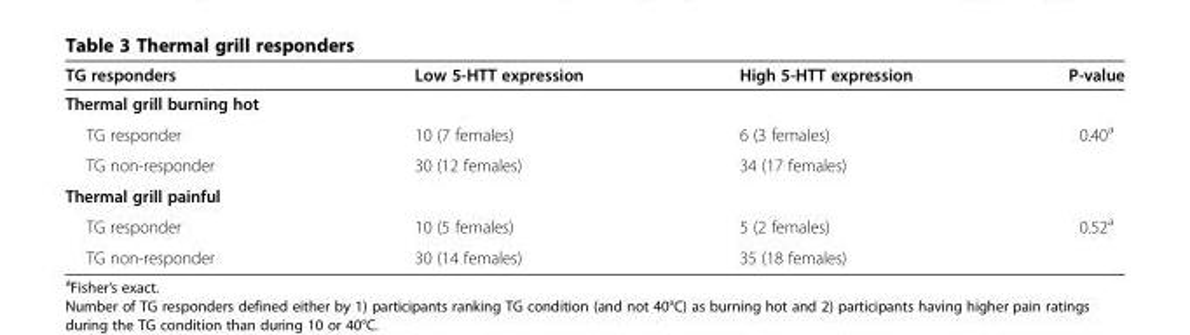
<table><thead><tr><td>TG responders</td><td>Low 5-HTT expression</td><td>High 5-HTT expression</td><td>P-value</td></tr></thead><tbody><tr><td colspan="4">Thermal grill burning hot</td></tr><tr><td>TG responder</td><td>10 (7 females)</td><td>6 (3 females)</td><td>0.40<sup>a</sup></td></tr><tr><td>TG non-responder</td><td>30 (12 females)</td><td>34 (17 females)</td><td></td></tr><tr><td colspan="4">Thermal grill painful</td></tr><tr><td>TG responder</td><td>10 (5 females)</td><td>5 (2 females)</td><td>0.52<sup>a</sup></td></tr><tr><td>TG non-responder</td><td>30 (14 females)</td><td>35 (18 females)</td><td></td></tr></tbody></table>